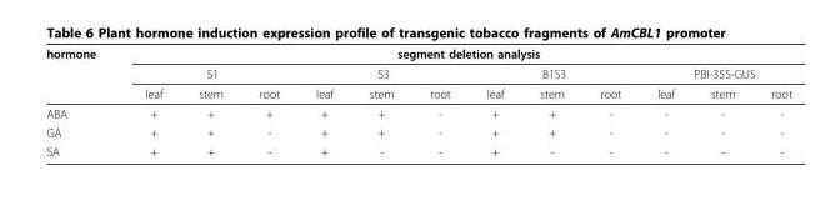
<table><thead><tr><td rowspan="3">hormone</td><td colspan="12">segment deletion analysis</td></tr><tr><td colspan="3">S1</td><td colspan="3">S3</td><td colspan="3">B1S3</td><td colspan="3">PBI-35S-GUS</td></tr><tr><td>leaf</td><td>stem</td><td>root</td><td>leaf</td><td>stem</td><td>root</td><td>leaf</td><td>stem</td><td>root</td><td>leaf</td><td>stem</td><td>root</td></tr></thead><tbody><tr><td>ABA</td><td>+</td><td>+</td><td>+</td><td>+</td><td>+</td><td>-</td><td>+</td><td>+</td><td>-</td><td>-</td><td>-</td><td>-</td></tr><tr><td>GA</td><td>+</td><td>+</td><td>-</td><td>+</td><td>+</td><td>-</td><td>+</td><td>+</td><td>-</td><td>-</td><td>-</td><td>-</td></tr><tr><td>SA</td><td>+</td><td>+</td><td>-</td><td>+</td><td>-</td><td>-</td><td>+</td><td>-</td><td>-</td><td>-</td><td>-</td><td>-</td></tr></tbody></table>